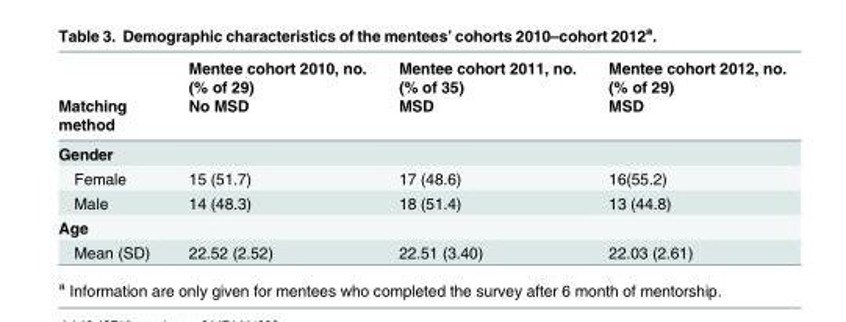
<table><thead><tr><td rowspan="2">Matching method</td><td rowspan="2">Mentee cohort 2010, no. (% of 29) No MSD</td><td rowspan="2">Mentee cohort 2011, no. (% of 35) MSD</td><td rowspan="2">Mentee cohort 2012, no. (% of 29) MSD</td></tr><tr></tr></thead><tbody><tr><td colspan="4">Gender</td></tr><tr><td>Female</td><td>15 (51.7)</td><td>17 (48.6)</td><td>16(55.2)</td></tr><tr><td>Male</td><td>14 (48.3)</td><td>18 (51.4)</td><td>13 (44.8)</td></tr><tr><td colspan="4">Age</td></tr><tr><td>Mean (SD)</td><td>22.52 (2.52)</td><td>22.51 (3.40)</td><td>22.03 (2.61)</td></tr></tbody></table>